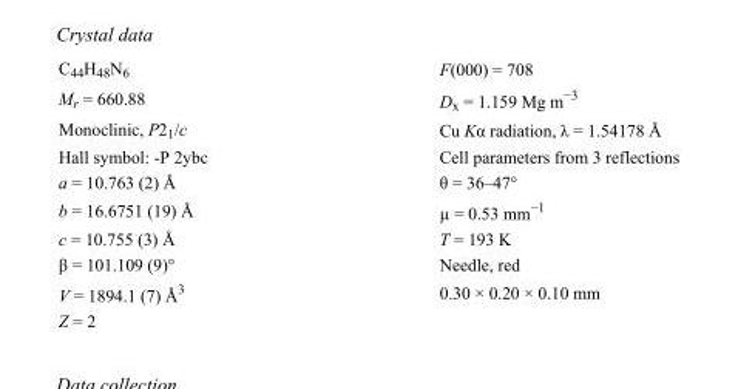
<table><tbody><tr><td>C<sub>44</sub>H<sub>48</sub>N<sub>6</sub></td><td>F(000) = 708</td></tr><tr><td>M<sub>r</sub> = 660.88</td><td>D<sub>x</sub> = 1.159 Mg m<sup>−3</sup></td></tr><tr><td>Monoclinic, P2<sub>1</sub>/c</td><td>Cu Kα radiation, λ = 1.54178 Å</td></tr><tr><td>Hall symbol: -P 2ybc</td><td>Cell parameters from 3 reflections</td></tr><tr><td>a = 10.763 (2) Å</td><td>θ = 36–47°</td></tr><tr><td>b = 16.6751 (19) Å</td><td>µ = 0.53 mm<sup>−1</sup></td></tr><tr><td>c = 10.755 (3) Å</td><td>T = 193 K</td></tr><tr><td>β = 101.109 (9)°</td><td>Needle, red</td></tr><tr><td>V = 1894.1 (7) Å<sup>3</sup></td><td>0.30 × 0.20 × 0.10 mm</td></tr><tr><td>Z = 2</td><td></td></tr></tbody></table>